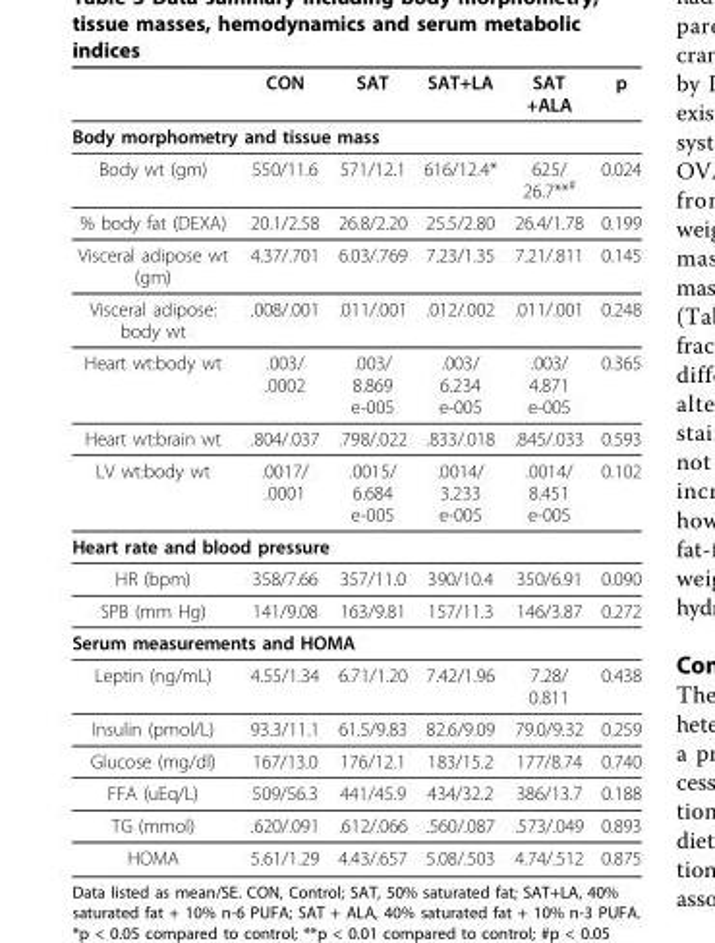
<table><thead><tr><td></td><td>CON</td><td>SAT</td><td>SAT+LA</td><td>SAT +ALA</td><td>p</td></tr></thead><tbody><tr><td colspan="6">Body morphometry and tissue mass</td></tr><tr><td>Body wt (gm)</td><td>550/11.6</td><td>571/12.1</td><td>616/12.4*</td><td>625/ 26.7**<sup>#</sup></td><td>0.024</td></tr><tr><td>% body fat (DEXA)</td><td>20.1/2.58</td><td>26.8/2.20</td><td>25.5/2.80</td><td>26.4/1.78</td><td>0.199</td></tr><tr><td>Visceral adipose wt (gm)</td><td>4.37/.701</td><td>6.03/.769</td><td>7.23/1.35</td><td>7.21/.811</td><td>0.145</td></tr><tr><td>Visceral adipose: body wt</td><td>.008/.001</td><td>.011/.001</td><td>.012/.002</td><td>.011/.001</td><td>0.248</td></tr><tr><td>Heart wt:body wt</td><td>.003/ .0002</td><td>.003/ 8.869 e-005</td><td>.003/ 6.234 e-005</td><td>.003/ 4.871 e-005</td><td>0.365</td></tr><tr><td>Heart wt:brain wt</td><td>.804/.037</td><td>.798/.022</td><td>.833/.018</td><td>.845/.033</td><td>0.593</td></tr><tr><td>LV wt:body wt</td><td>.0017/ .0001</td><td>.0015/ 6.684 e-005</td><td>.0014/ 3.233 e-005</td><td>.0014/ 8.451 e-005</td><td>0.102</td></tr><tr><td colspan="6">Heart rate and blood pressure</td></tr><tr><td>HR (bpm)</td><td>358/7.66</td><td>357/11.0</td><td>390/10.4</td><td>350/6.91</td><td>0.090</td></tr><tr><td>SPB (mm Hg)</td><td>141/9.08</td><td>163/9.81</td><td>157/11.3</td><td>146/3.87</td><td>0.272</td></tr><tr><td colspan="6">Serum measurements and HOMA</td></tr><tr><td>Leptin (ng/mL)</td><td>4.55/1.34</td><td>6.71/1.20</td><td>7.42/1.96</td><td>7.28/ 0.811</td><td>0.438</td></tr><tr><td>Insulin (pmol/L)</td><td>93.3/11.1</td><td>61.5/9.83</td><td>82.6/9.09</td><td>79.0/9.32</td><td>0.259</td></tr><tr><td>Glucose (mg/dl)</td><td>167/13.0</td><td>176/12.1</td><td>183/15.2</td><td>177/8.74</td><td>0.740</td></tr><tr><td>FFA (uEq/L)</td><td>509/56.3</td><td>441/45.9</td><td>434/32.2</td><td>386/13.7</td><td>0.188</td></tr><tr><td>TG (mmol)</td><td>.620/.091</td><td>.612/.066</td><td>.560/.087</td><td>.573/.049</td><td>0.893</td></tr><tr><td>HOMA</td><td>5.61/1.29</td><td>4.43/.657</td><td>5.08/.503</td><td>4.74/.512</td><td>0.875</td></tr></tbody></table>